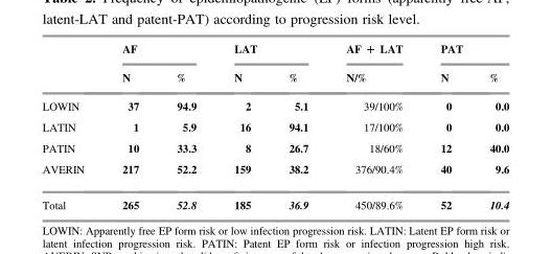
<table><thead><tr><td rowspan="2"></td><td colspan="2">AF</td><td colspan="2">LAT</td><td rowspan="2">AF + LAT N/%</td><td colspan="2">PAT</td></tr><tr><td>N</td><td>%</td><td>N</td><td>%</td><td>N</td><td>%</td></tr></thead><tbody><tr><td>LOWIN</td><td>37</td><td>94.9</td><td>2</td><td>5.1</td><td>39/100%</td><td>0</td><td>0.0</td></tr><tr><td>LATIN</td><td>1</td><td>5.9</td><td>16</td><td>94.1</td><td>17/100%</td><td>0</td><td>0.0</td></tr><tr><td>PATIN</td><td>10</td><td>33.3</td><td>8</td><td>26.7</td><td>18/60%</td><td>12</td><td>40.0</td></tr><tr><td>AVERIN</td><td>217</td><td>52.2</td><td>159</td><td>38.2</td><td>376/90.4%</td><td>40</td><td>9.6</td></tr><tr><td>Total</td><td>265</td><td>52.8</td><td>185</td><td>36.9</td><td>450/89.6%</td><td>52</td><td>10.4</td></tr></tbody></table>